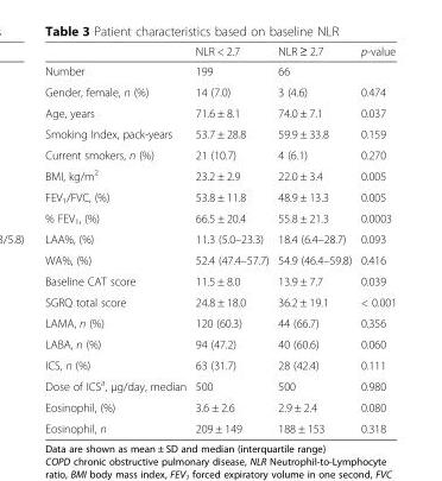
<table><thead><tr><td></td><td>NLR &lt; 2.7</td><td>NLR ≥ 2.7</td><td>p-value</td></tr></thead><tbody><tr><td>Number</td><td>199</td><td>66</td><td></td></tr><tr><td>Gender, female, n (%)</td><td>14 (7.0)</td><td>3 (4.6)</td><td>0.474</td></tr><tr><td>Age, years</td><td>71.6 ± 8.1</td><td>74.0 ± 7.1</td><td>0.037</td></tr><tr><td>Smoking Index, pack-years</td><td>53.7 ± 28.8</td><td>59.9 ± 33.8</td><td>0.159</td></tr><tr><td>Current smokers, n (%)</td><td>21 (10.7)</td><td>4 (6.1)</td><td>0.270</td></tr><tr><td>BMI, kg/m<sup>2</sup></td><td>23.2 ± 2.9</td><td>22.0 ± 3.4</td><td>0.005</td></tr><tr><td>FEV<sub>1</sub>/FVC, (%)</td><td>53.8 ± 11.8</td><td>48.9 ± 13.3</td><td>0.005</td></tr><tr><td>% FEV<sub>1</sub>, (%)</td><td>66.5 ± 20.4</td><td>55.8 ± 21.3</td><td>0.0003</td></tr><tr><td>LAA%, (%)</td><td>11.3 (5.0–23.3)</td><td>18.4 (6.4–28.7)</td><td>0.093</td></tr><tr><td>WA%, (%)</td><td>52.4 (47.4–57.7)</td><td>54.9 (46.4–59.8)</td><td>0.416</td></tr><tr><td>Baseline CAT score</td><td>11.5 ± 8.0</td><td>13.9 ± 7.7</td><td>0.039</td></tr><tr><td>SGRQ total score</td><td>24.8 ± 18.0</td><td>36.2 ± 19.1</td><td>&lt; 0.001</td></tr><tr><td>LAMA, n (%)</td><td>120 (60.3)</td><td>44 (66.7)</td><td>0.356</td></tr><tr><td>LABA, n (%)</td><td>94 (47.2)</td><td>40 (60.6)</td><td>0.060</td></tr><tr><td>ICS, n (%)</td><td>63 (31.7)</td><td>28 (42.4)</td><td>0.111</td></tr><tr><td>Dose of ICS<sup>a</sup>, μg/day, median</td><td>500</td><td>500</td><td>0.980</td></tr><tr><td>Eosinophil, (%)</td><td>3.6 ± 2.6</td><td>2.9 ± 2.4</td><td>0.080</td></tr><tr><td>Eosinophil, n</td><td>209 ± 149</td><td>188 ± 153</td><td>0.318</td></tr></tbody></table>